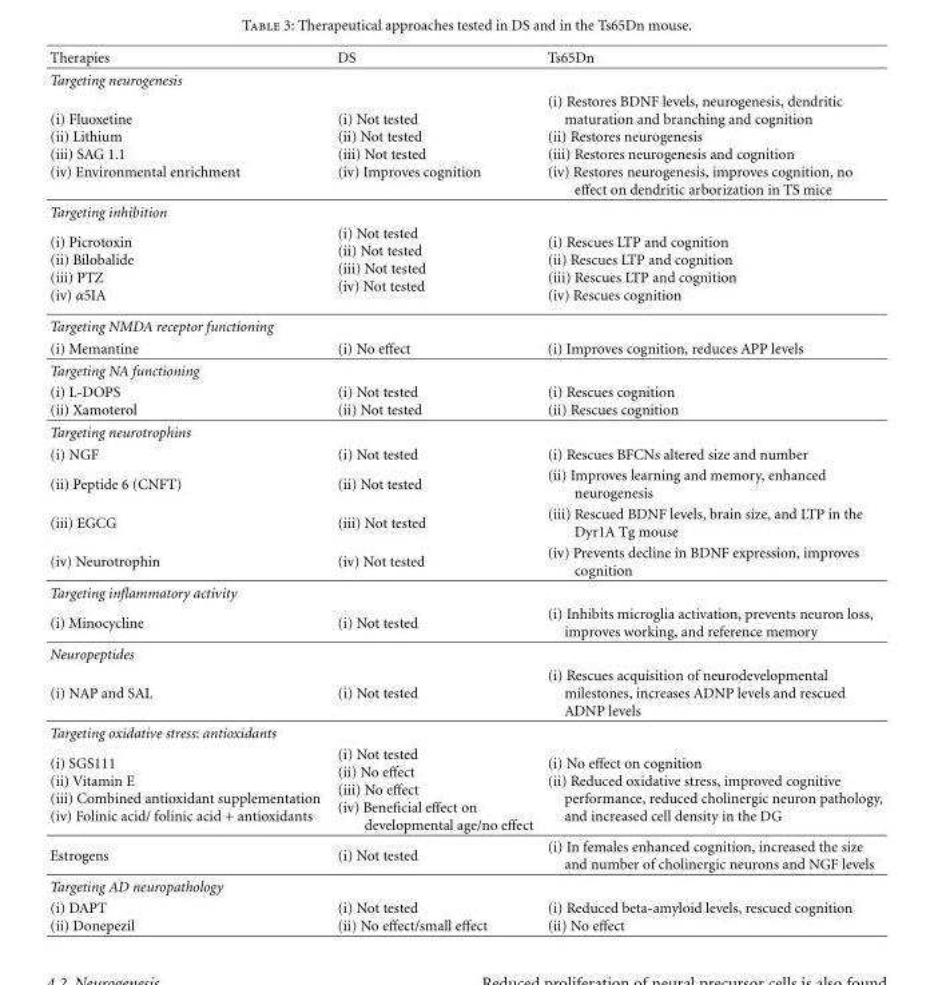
<table><thead><tr><td>Therapies</td><td>DS</td><td>Ts65Dn</td></tr></thead><tbody><tr><td colspan="3">Targeting neurogenesis</td></tr><tr><td>(i) Fluoxetine (ii) Lithium (iii) SAG 1.1 (iv) Environmental enrichment</td><td>(i) Not tested (ii) Not tested (iii) Not tested (iv) Improves cognition</td><td>(i) Restores BDNF levels, neurogenesis, dendritic maturation and branching and cognition (ii) Restores neurogenesis (iii) Restores neurogenesis and cognition (iv) Restores neurogenesis, improves cognition, no effect on dendritic arborization in TS mice</td></tr><tr><td colspan="3">Targeting inhibition</td></tr><tr><td>(i) Picrotoxin (ii) Bilobalide (iii) PTZ (iv) α5IA</td><td>(i) Not tested (ii) Not tested (iii) Not tested (iv) Not tested</td><td>(i) Rescues LTP and cognition (ii) Rescues LTP and cognition (iii) Rescues LTP and cognition (iv) Rescues cognition</td></tr><tr><td colspan="3">Targeting NMDA receptor functioning</td></tr><tr><td>(i) Memantine</td><td>(i) No effect</td><td>(i) Improves cognition, reduces APP levels</td></tr><tr><td colspan="3">Targeting NA functioning</td></tr><tr><td>(i) L-DOPS (ii) Xamoterol</td><td>(i) Not tested (ii) Not tested</td><td>(i) Rescues cognition (ii) Rescues cognition</td></tr><tr><td colspan="3">Targeting neurotrophins</td></tr><tr><td>(i) NGF</td><td>(i) Not tested</td><td>(i) Rescues BFCNs altered size and number</td></tr><tr><td>(ii) Peptide 6 (CNFT)</td><td>(ii) Not tested</td><td>(ii) Improves learning and memory, enhanced neurogenesis</td></tr><tr><td>(iii) EGCG</td><td>(iii) Not tested</td><td>(iii) Rescued BDNF levels, brain size, and LTP in the Dyr1A Tg mouse</td></tr><tr><td>(iv) Neurotrophin</td><td>(iv) Not tested</td><td>(iv) Prevents decline in BDNF expression, improves cognition</td></tr><tr><td colspan="3">Targeting inflammatory activity</td></tr><tr><td>(i) Minocycline</td><td>(i) Not tested</td><td>(i) Inhibits microglia activation, prevents neuron loss, improves working, and reference memory</td></tr><tr><td colspan="3">Neuropeptides</td></tr><tr><td>(i) NAP and SAL</td><td>(i) Not tested</td><td>(i) Rescues acquisition of neurodevelopmental milestones, increases ADNP levels and rescued ADNP levels</td></tr><tr><td colspan="3">Targeting oxidative stress: antioxidants</td></tr><tr><td>(i) SGS111 (ii) Vitamin E (iii) Combined antioxidant supplementation (iv) Folinic acid/ folinic acid + antioxidants</td><td>(i) Not tested (ii) No effect (iii) No effect (iv) Beneficial effect on developmental age/no effect</td><td>(i) No effect on cognition (ii) Reduced oxidative stress, improved cognitive performance, reduced cholinergic neuron pathology, and increased cell density in the DG</td></tr><tr><td>Estrogens</td><td>(i) Not tested</td><td>(i) In females enhanced cognition, increased the size and number of cholinergic neurons and NGF levels</td></tr><tr><td colspan="3">Targeting AD neuropathology</td></tr><tr><td>(i) DAPT (ii) Donepezil</td><td>(i) Not tested (ii) No effect/small effect</td><td>(i) Reduced beta-amyloid levels, rescued cognition (ii) No effect</td></tr></tbody></table>